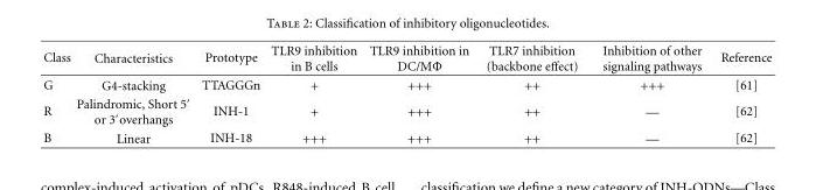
<table><thead><tr><td>Class</td><td>Characteristics</td><td>Prototype</td><td>TLR9 inhibition in B cells</td><td>TLR9 inhibition in DC/MΦ</td><td>TLR7 inhibition (backbone effect)</td><td>Inhibition of other signaling pathways</td><td>Reference</td></tr></thead><tbody><tr><td>G</td><td>G4-stacking</td><td>TTAGGGn</td><td>+</td><td>+++</td><td>++</td><td>+++</td><td>[61]</td></tr><tr><td>R</td><td>Palindromic, Short 5′ or 3′overhangs</td><td>INH-1</td><td>+</td><td>+++</td><td>++</td><td>—</td><td>[62]</td></tr><tr><td>B</td><td>Linear</td><td>INH-18</td><td>+++</td><td>+++</td><td>++</td><td>—</td><td>[62]</td></tr></tbody></table>